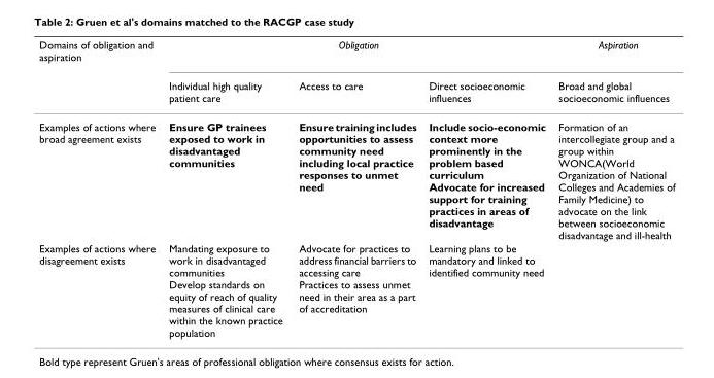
<table><thead><tr><td rowspan="2">Domains of obligation and aspiration</td><td colspan="3">Obligation</td><td rowspan="2">Aspiration Broad and global socioeconomic influences</td></tr><tr><td>Individual high quality patient care</td><td>Access to care</td><td>Direct socioeconomic influences</td></tr></thead><tbody><tr><td>Examples of actions where broad agreement exists</td><td>Ensure GP trainees exposed to work in disadvantaged communities</td><td>Ensure training includes opportunities to assess community need including local practice responses to unmet need</td><td>Include socio-economic context more prominently in the problem based curriculum Advocate for increased support for training practices in areas of disadvantage</td><td>Formation of an intercollegiate group and a group within WONCA(World Organization of National Colleges and Academies of Family Medicine) to advocate on the link between socioeconomic disadvantage and ill-health</td></tr><tr><td>Examples of actions where disagreement exists</td><td>Mandating exposure to work in disadvantaged communities Develop standards on equity of reach of quality measures of clinical care within the known practice population</td><td>Advocate for practices to address financial barriers to accessing care Practices to assess unmet need in their area as a part of accreditation</td><td>Learning plans to be mandatory and linked to identified community need</td><td></td></tr></tbody></table>